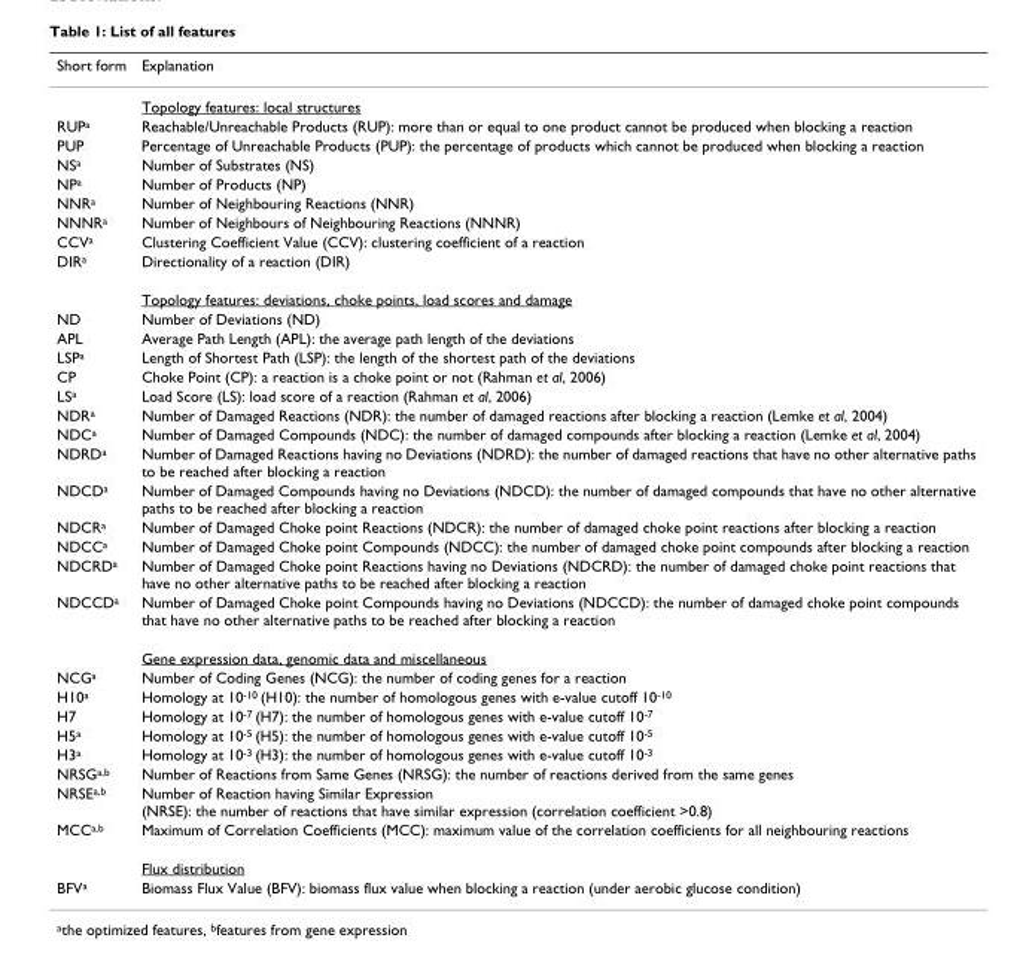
<table><thead><tr><td>Short form</td><td>Explanation</td></tr></thead><tbody><tr><td></td><td>Topology features: local structures</td></tr><tr><td>RUP<sup>a</sup></td><td>Reachable/Unreachable Products (RUP): more than or equal to one product cannot be produced when blocking a reaction</td></tr><tr><td>PUP</td><td>Percentage of Unreachable Products (PUP): the percentage of products which cannot be produced when blocking a reaction</td></tr><tr><td>NS<sup>a</sup></td><td>Number of Substrates (NS)</td></tr><tr><td>NP<sup>a</sup></td><td>Number of Products (NP)</td></tr><tr><td>NNR<sup>a</sup></td><td>Number of Neighbouring Reactions (NNR)</td></tr><tr><td>NNNR<sup>a</sup></td><td>Number of Neighbours of Neighbouring Reactions (NNNR)</td></tr><tr><td>CCV<sup>a</sup></td><td>Clustering Coefficient Value (CCV): clustering coefficient of a reaction</td></tr><tr><td rowspan="2">DIR<sup>a</sup></td><td>Directionality of a reaction (DIR)</td></tr><tr><td>Topology features: deviations, choke points, load scores and damage</td></tr><tr><td>ND</td><td>Number of Deviations (ND)</td></tr><tr><td>APL</td><td>Average Path Length (APL): the average path length of the deviations</td></tr><tr><td>LSP<sup>a</sup></td><td>Length of Shortest Path (LSP): the length of the shortest path of the deviations</td></tr><tr><td>CP</td><td>Choke Point (CP): a reaction is a choke point or not (Rahman et al, 2006)</td></tr><tr><td>LS<sup>a</sup></td><td>Load Score (LS): load score of a reaction (Rahman et al, 2006)</td></tr><tr><td>NDR<sup>a</sup></td><td>Number of Damaged Reactions (NDR): the number of damaged reactions after blocking a reaction (Lemke et al, 2004)</td></tr><tr><td>NDC<sup>a</sup></td><td>Number of Damaged Compounds (NDC): the number of damaged compounds after blocking a reaction (Lemke et al, 2004)</td></tr><tr><td>NDRD<sup>a</sup></td><td>Number of Damaged Reactions having no Deviations (NDRD): the number of damaged reactions that have no other alternative paths to be reached after blocking a reaction</td></tr><tr><td>NDCD<sup>a</sup></td><td>Number of Damaged Compounds having no Deviations (NDCD): the number of damaged compounds that have no other alternative paths to be reached after blocking a reaction</td></tr><tr><td>NDCR<sup>a</sup></td><td>Number of Damaged Choke point Reactions (NDCR): the number of damaged choke point reactions after blocking a reaction</td></tr><tr><td>NDCC<sup>a</sup></td><td>Number of Damaged Choke point Compounds (NDCC): the number of damaged choke point compounds after blocking a reaction</td></tr><tr><td>NDCRD<sup>a</sup></td><td>Number of Damaged Choke point Reactions having no Deviations (NDCRD): the number of damaged choke point reactions that have no other alternative paths to be reached after blocking a reaction</td></tr><tr><td rowspan="2">NDCCD<sup>a</sup></td><td>Number of Damaged Choke point Compounds having no Deviations (NDCCD): the number of damaged choke point compounds that have no other alternative paths to be reached after blocking a reaction</td></tr><tr><td>Gene expression data, genomic data and miscellaneous</td></tr><tr><td>NCG<sup>a</sup></td><td>Number of Coding Genes (NCG): the number of coding genes for a reaction</td></tr><tr><td>H10<sup>a</sup></td><td>Homology at 10<sup>-10</sup> (H10): the number of homologous genes with e-value cutoff 10<sup>-10</sup></td></tr><tr><td>H7</td><td>Homology at 10<sup>-7</sup> (H7): the number of homologous genes with e-value cutoff 10<sup>-7</sup></td></tr><tr><td>H5<sup>a</sup></td><td>Homology at 10<sup>-5</sup> (H5): the number of homologous genes with e-value cutoff 10<sup>-5</sup></td></tr><tr><td>H3<sup>a</sup></td><td>Homology at 10<sup>-3</sup> (H3): the number of homologous genes with e-value cutoff 10<sup>-3</sup></td></tr><tr><td>NRSG<sup>a,b</sup></td><td>Number of Reactions from Same Genes (NRSG): the number of reactions derived from the same genes</td></tr><tr><td>NRSE<sup>a,b</sup></td><td>Number of Reaction having Similar Expression (NRSE): the number of reactions that have similar expression (correlation coefficient &gt;0.8)</td></tr><tr><td rowspan="2">MCC<sup>a,b</sup></td><td>Maximum of Correlation Coefficients (MCC): maximum value of the correlation coefficients for all neighbouring reactions</td></tr><tr><td>Flux distribution</td></tr><tr><td>BFV<sup>a</sup></td><td>Biomass Flux Value (BFV): biomass flux value when blocking a reaction (under aerobic glucose condition)</td></tr></tbody></table>